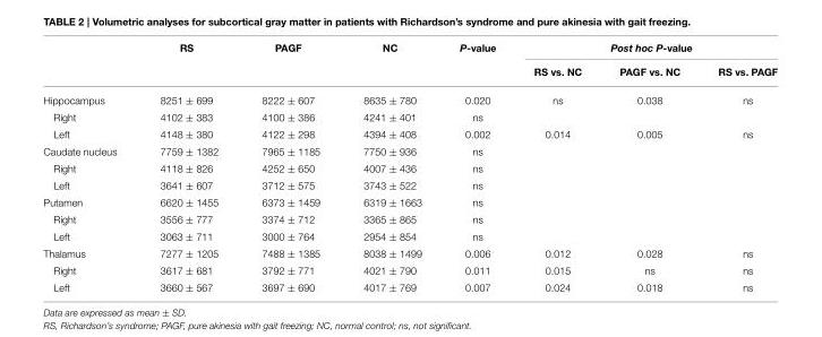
<table><thead><tr><td rowspan="2"></td><td rowspan="2">RS</td><td rowspan="2">PAGF</td><td rowspan="2">NC</td><td rowspan="2">P-value</td><td colspan="3">Post hoc P-value</td></tr><tr><td>RS vs. NC</td><td>PAGF vs. NC</td><td>RS vs. PAGF</td></tr></thead><tbody><tr><td>Hippocampus</td><td>8251 ± 699</td><td>8222 ± 607</td><td>8635 ± 780</td><td>0.020</td><td>ns</td><td>0.038</td><td>ns</td></tr><tr><td>Right</td><td>4102 ± 383</td><td>4100 ± 386</td><td>4241 ± 401</td><td>ns</td><td></td><td></td><td></td></tr><tr><td>Left</td><td>4148 ± 380</td><td>4122 ± 298</td><td>4394 ± 408</td><td>0.002</td><td>0.014</td><td>0.005</td><td>ns</td></tr><tr><td>Caudate nucleus</td><td>7759 ± 1382</td><td>7965 ± 1185</td><td>7750 ± 936</td><td>ns</td><td></td><td></td><td></td></tr><tr><td>Right</td><td>4118 ± 826</td><td>4252 ± 650</td><td>4007 ± 436</td><td>ns</td><td></td><td></td><td></td></tr><tr><td>Left</td><td>3641 ± 607</td><td>3712 ± 575</td><td>3743 ± 522</td><td>ns</td><td></td><td></td><td></td></tr><tr><td>Putamen</td><td>6620 ± 1455</td><td>6373 ± 1459</td><td>6319 ± 1663</td><td>ns</td><td></td><td></td><td></td></tr><tr><td>Right</td><td>3556 ± 777</td><td>3374 ± 712</td><td>3365 ± 865</td><td>ns</td><td></td><td></td><td></td></tr><tr><td>Left</td><td>3063 ± 711</td><td>3000 ± 764</td><td>2954 ± 854</td><td>ns</td><td></td><td></td><td></td></tr><tr><td>Thalamus</td><td>7277 ± 1205</td><td>7488 ± 1385</td><td>8038 ± 1499</td><td>0.006</td><td>0.012</td><td>0.028</td><td>ns</td></tr><tr><td>Right</td><td>3617 ± 681</td><td>3792 ± 771</td><td>4021 ± 790</td><td>0.011</td><td>0.015</td><td>ns</td><td>ns</td></tr><tr><td>Left</td><td>3660 ± 567</td><td>3697 ± 690</td><td>4017 ± 769</td><td>0.007</td><td>0.024</td><td>0.018</td><td>ns</td></tr></tbody></table>